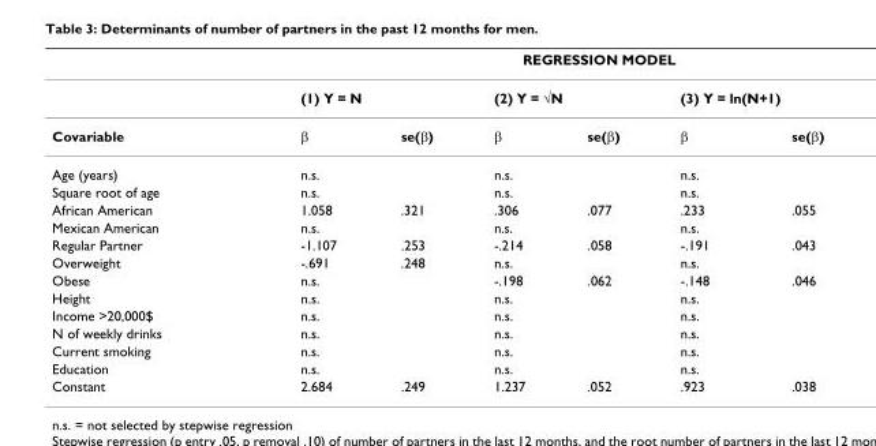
<table><thead><tr><td rowspan="3">Covariable</td><td colspan="6">REGRESSION MODEL</td></tr><tr><td colspan="2">(1) Y = N</td><td colspan="2">(2) Y = √N</td><td colspan="2">(3) Y = ln(N+1)</td></tr><tr><td>β</td><td>se(β)</td><td>β</td><td>se(β)</td><td>β</td><td>se(β)</td></tr></thead><tbody><tr><td>Age (years)</td><td>n.s.</td><td></td><td>n.s.</td><td></td><td>n.s.</td><td></td></tr><tr><td>Square root of age</td><td>n.s.</td><td></td><td>n.s.</td><td></td><td>n.s.</td><td></td></tr><tr><td>African American</td><td>1.058</td><td>.321</td><td>.306</td><td>.077</td><td>.233</td><td>.055</td></tr><tr><td>Mexican American</td><td>n.s.</td><td></td><td>n.s.</td><td></td><td>n.s.</td><td></td></tr><tr><td>Regular Partner</td><td>-1.107</td><td>.253</td><td>-.214</td><td>.058</td><td>-.191</td><td>.043</td></tr><tr><td>Overweight</td><td>-.691</td><td>.248</td><td>n.s.</td><td></td><td>n.s.</td><td></td></tr><tr><td>Obese</td><td>n.s.</td><td></td><td>-.198</td><td>.062</td><td>-.148</td><td>.046</td></tr><tr><td>Height</td><td>n.s.</td><td></td><td>n.s.</td><td></td><td>n.s.</td><td></td></tr><tr><td>Income &gt;20,000$</td><td>n.s.</td><td></td><td>n.s.</td><td></td><td>n.s.</td><td></td></tr><tr><td>N of weekly drinks</td><td>n.s.</td><td></td><td>n.s.</td><td></td><td>n.s.</td><td></td></tr><tr><td>Current smoking</td><td>n.s.</td><td></td><td>n.s.</td><td></td><td>n.s.</td><td></td></tr><tr><td>Education</td><td>n.s.</td><td></td><td>n.s.</td><td></td><td>n.s.</td><td></td></tr><tr><td>Constant</td><td>2.684</td><td>.249</td><td>1.237</td><td>.052</td><td>.923</td><td>.038</td></tr></tbody></table>